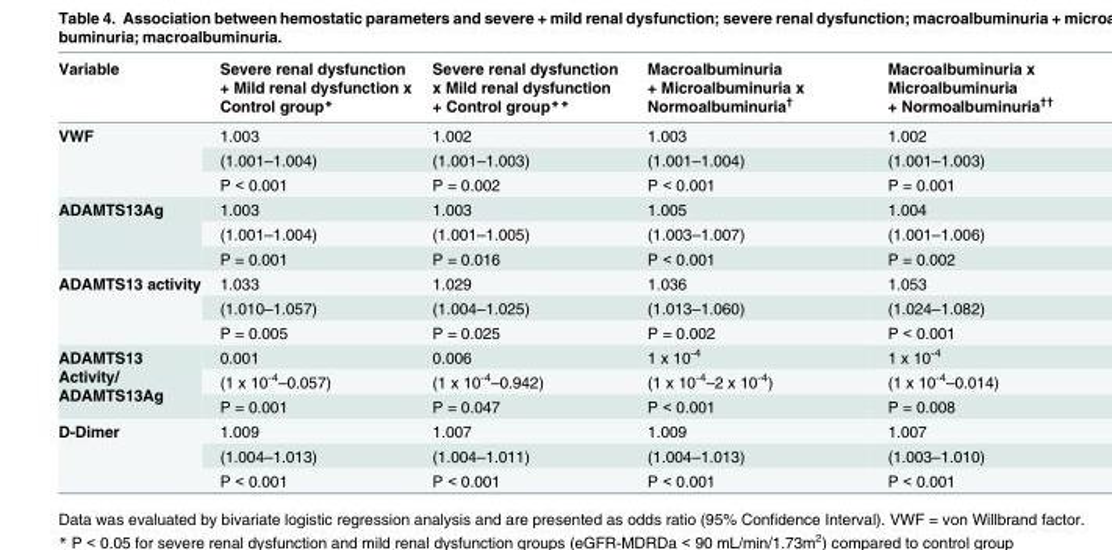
<table><thead><tr><td>Variable</td><td>Severe renal dysfunction + Mild renal dysfunction x Control group*</td><td>Severe renal dysfunction x Mild renal dysfunction + Control group**</td><td>Macroalbuminuria + Microalbuminuria x Normoalbuminuria<sup>†</sup></td><td>Macroalbuminuria x Microalbuminuria + Normoalbuminuria<sup>††</sup></td></tr></thead><tbody><tr><td rowspan="3">VWF</td><td>1.003</td><td>1.002</td><td>1.003</td><td>1.002</td></tr><tr><td>(1.001–1.004)</td><td>(1.001–1.003)</td><td>(1.001–1.004)</td><td>(1.001–1.003)</td></tr><tr><td>P &lt; 0.001</td><td>P = 0.002</td><td>P &lt; 0.001</td><td>P = 0.001</td></tr><tr><td rowspan="3">ADAMTS13Ag</td><td>1.003</td><td>1.003</td><td>1.005</td><td>1.004</td></tr><tr><td>(1.001–1.004)</td><td>(1.001–1.005)</td><td>(1.003–1.007)</td><td>(1.001–1.006)</td></tr><tr><td>P = 0.001</td><td>P = 0.016</td><td>P &lt; 0.001</td><td>P = 0.002</td></tr><tr><td rowspan="3">ADAMTS13 activity</td><td>1.033</td><td>1.029</td><td>1.036</td><td>1.053</td></tr><tr><td>(1.010–1.057)</td><td>(1.004–1.025)</td><td>(1.013–1.060)</td><td>(1.024–1.082)</td></tr><tr><td>P = 0.005</td><td>P = 0.025</td><td>P = 0.002</td><td>P &lt; 0.001</td></tr><tr><td rowspan="3">ADAMTS13 Activity/ ADAMTS13Ag</td><td>0.001</td><td>0.006</td><td>1 x 10<sup>-4</sup></td><td>1 x 10<sup>-4</sup></td></tr><tr><td>(1 x 10<sup>-4</sup>–0.057)</td><td>(1 x 10<sup>-4</sup>–0.942)</td><td>(1 x 10<sup>-4</sup>–2 x 10<sup>-4</sup>)</td><td>(1 x 10<sup>-4</sup>–0.014)</td></tr><tr><td>P = 0.001</td><td>P = 0.047</td><td>P &lt; 0.001</td><td>P = 0.008</td></tr><tr><td rowspan="3">D-Dimer</td><td>1.009</td><td>1.007</td><td>1.009</td><td>1.007</td></tr><tr><td>(1.004–1.013)</td><td>(1.004–1.011)</td><td>(1.004–1.013)</td><td>(1.003–1.010)</td></tr><tr><td>P &lt; 0.001</td><td>P &lt; 0.001</td><td>P &lt; 0.001</td><td>P &lt; 0.001</td></tr></tbody></table>